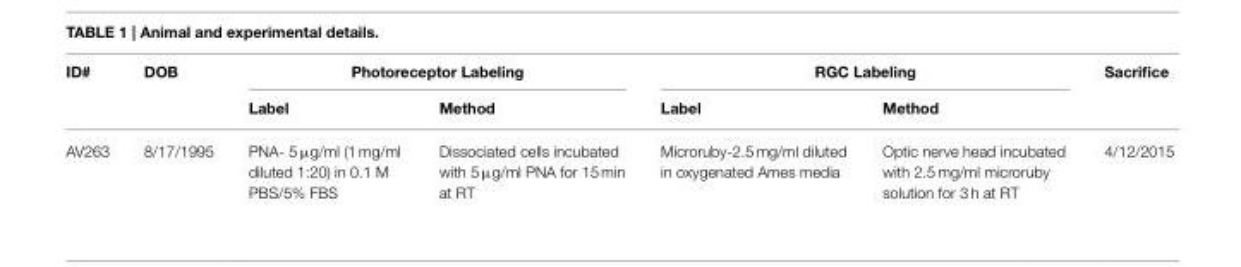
<table><thead><tr><td rowspan="2">ID#</td><td rowspan="2">DOB</td><td colspan="2">Photoreceptor Labeling</td><td colspan="2">RGC Labeling</td><td rowspan="2">Sacrifice</td></tr><tr><td>Label</td><td>Method</td><td>Label</td><td>Method</td></tr></thead><tbody><tr><td>AV263</td><td>8/17/1995</td><td>PNA- 5 µg/ml (1 mg/ml diluted 1:20) in 0.1 M PBS/5% FBS</td><td>Dissociated cells incubated with 5 µg/ml PNA for 15 min at RT</td><td>Microruby-2.5 mg/ml diluted in oxygenated Ames media</td><td>Optic nerve head incubated with 2.5 mg/ml microruby solution for 3 h at RT</td><td>4/12/2015</td></tr></tbody></table>